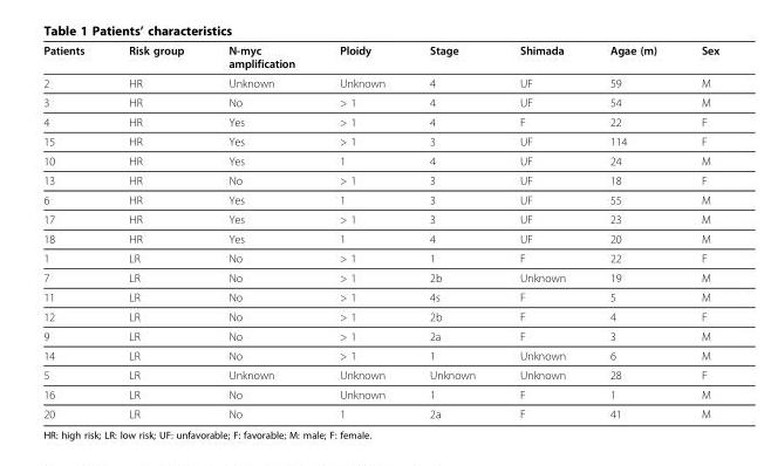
<table><thead><tr><td>Patients</td><td>Risk group</td><td>N-myc amplification</td><td>Ploidy</td><td>Stage</td><td>Shimada</td><td>Agae (m)</td><td>Sex</td></tr></thead><tbody><tr><td>2</td><td>HR</td><td>Unknown</td><td>Unknown</td><td>4</td><td>UF</td><td>59</td><td>M</td></tr><tr><td>3</td><td>HR</td><td>No</td><td>&gt; 1</td><td>4</td><td>UF</td><td>54</td><td>M</td></tr><tr><td>4</td><td>HR</td><td>Yes</td><td>&gt; 1</td><td>4</td><td>F</td><td>22</td><td>F</td></tr><tr><td>15</td><td>HR</td><td>Yes</td><td>&gt; 1</td><td>3</td><td>UF</td><td>114</td><td>F</td></tr><tr><td>10</td><td>HR</td><td>Yes</td><td>1</td><td>4</td><td>UF</td><td>24</td><td>M</td></tr><tr><td>13</td><td>HR</td><td>No</td><td>&gt; 1</td><td>3</td><td>UF</td><td>18</td><td>F</td></tr><tr><td>6</td><td>HR</td><td>Yes</td><td>1</td><td>3</td><td>UF</td><td>55</td><td>M</td></tr><tr><td>17</td><td>HR</td><td>Yes</td><td>&gt; 1</td><td>3</td><td>UF</td><td>23</td><td>M</td></tr><tr><td>18</td><td>HR</td><td>Yes</td><td>1</td><td>4</td><td>UF</td><td>20</td><td>M</td></tr><tr><td>1</td><td>LR</td><td>No</td><td>&gt; 1</td><td>1</td><td>F</td><td>22</td><td>F</td></tr><tr><td>7</td><td>LR</td><td>No</td><td>&gt; 1</td><td>2b</td><td>Unknown</td><td>19</td><td>M</td></tr><tr><td>11</td><td>LR</td><td>No</td><td>&gt; 1</td><td>4s</td><td>F</td><td>5</td><td>M</td></tr><tr><td>12</td><td>LR</td><td>No</td><td>&gt; 1</td><td>2b</td><td>F</td><td>4</td><td>F</td></tr><tr><td>9</td><td>LR</td><td>No</td><td>&gt; 1</td><td>2a</td><td>F</td><td>3</td><td>M</td></tr><tr><td>14</td><td>LR</td><td>No</td><td>&gt; 1</td><td>1</td><td>Unknown</td><td>6</td><td>M</td></tr><tr><td>5</td><td>LR</td><td>Unknown</td><td>Unknown</td><td>Unknown</td><td>Unknown</td><td>28</td><td>F</td></tr><tr><td>16</td><td>LR</td><td>No</td><td>Unknown</td><td>1</td><td>F</td><td>1</td><td>M</td></tr><tr><td>20</td><td>LR</td><td>No</td><td>1</td><td>2a</td><td>F</td><td>41</td><td>M</td></tr></tbody></table>